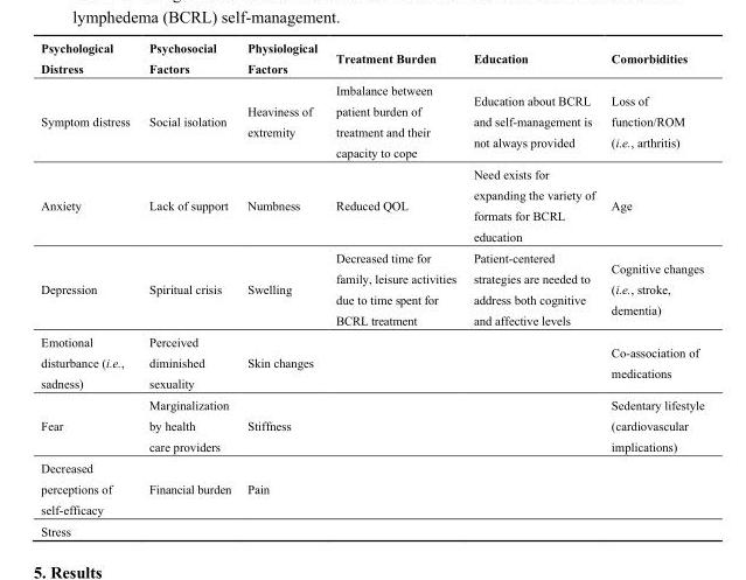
<table><thead><tr><td>Psychological Distress</td><td>Psychosocial Factors</td><td>Physiological Factors</td><td>Treatment Burden</td><td>Education</td><td>Comorbidities</td></tr></thead><tbody><tr><td>Symptom distress</td><td>Social isolation</td><td>Heaviness of extremity</td><td>Imbalance between patient burden of treatment and their capacity to cope</td><td>Education about BCRL and self-management is not always provided</td><td>Loss of function/ROM (i.e., arthritis)</td></tr><tr><td>Anxiety</td><td>Lack of support</td><td>Numbness</td><td>Reduced QOL</td><td>Need exists for expanding the variety of formats for BCRL education</td><td>Age</td></tr><tr><td>Depression</td><td>Spiritual crisis</td><td>Swelling</td><td>Decreased time for family, leisure activities due to time spent for BCRL treatment</td><td>Patient-centered strategies are needed to address both cognitive and affective levels</td><td>Cognitive changes (i.e., stroke, dementia)</td></tr><tr><td>Emotional disturbance (i.e., sadness)</td><td>Perceived diminished sexuality</td><td>Skin changes</td><td></td><td></td><td>Co-association of medications</td></tr><tr><td>Fear</td><td>Marginalization by health care providers</td><td>Stiffness</td><td></td><td></td><td>Sedentary lifestyle (cardiovascular implications)</td></tr><tr><td>Decreased perceptions of self-efficacy</td><td>Financial burden</td><td>Pain</td><td></td><td></td><td></td></tr><tr><td>Stress</td><td></td><td></td><td></td><td></td><td></td></tr></tbody></table>